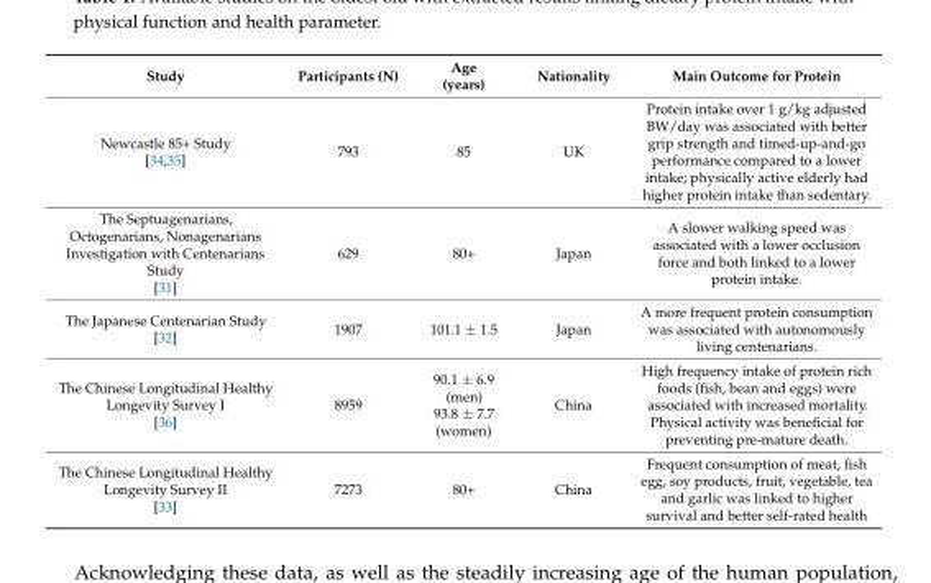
<table><thead><tr><td>Study</td><td>Participants (N)</td><td>Age (years)</td><td>Nationality</td><td>Main Outcome for Protein</td></tr></thead><tbody><tr><td>Newcastle 85+ Study [34,35]</td><td>793</td><td>85</td><td>UK</td><td>Protein intake over 1 g/kg adjusted BW/day was associated with better grip strength and timed-up-and-go performance compared to a lower intake; physically active elderly had higher protein intake than sedentary.</td></tr><tr><td>The Septuagenarians, Octogenarians, Nonagenarians Investigation with Centenarians Study [31]</td><td>629</td><td>80+</td><td>Japan</td><td>A slower walking speed was associated with a lower occlusion force and both linked to a lower protein intake.</td></tr><tr><td>The Japanese Centenarian Study [32]</td><td>1907</td><td>101.1 ± 1.5</td><td>Japan</td><td>A more frequent protein consumption was associated with autonomously living centenarians.</td></tr><tr><td>The Chinese Longitudinal Healthy Longevity Survey I [36]</td><td>8959</td><td>90.1 ± 6.9 (men) 93.8 ± 7.7 (women)</td><td>China</td><td>High frequency intake of protein rich foods (fish, bean and eggs) were associated with increased mortality. Physical activity was beneficial for preventing pre-mature death.</td></tr><tr><td>The Chinese Longitudinal Healthy Longevity Survey II [33]</td><td>7273</td><td>80+</td><td>China</td><td>Frequent consumption of meat, fish egg, soy products, fruit, vegetable, tea and garlic was linked to higher survival and better self-rated health</td></tr></tbody></table>